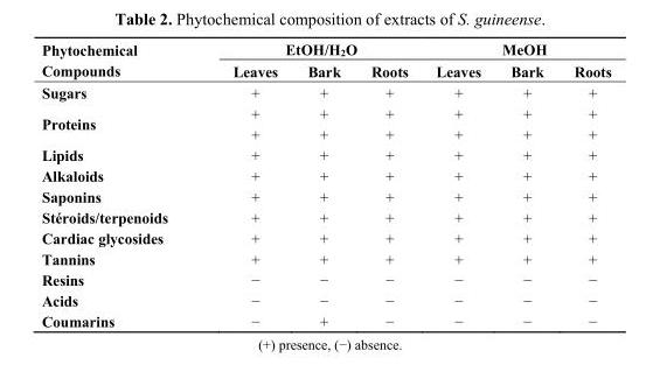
<table><thead><tr><td rowspan="2">Phytochemical Compounds</td><td colspan="3">EtOH/H<sub>2</sub>O</td><td colspan="3">MeOH</td></tr><tr><td>Leaves</td><td>Bark</td><td>Roots</td><td>Leaves</td><td>Bark</td><td>Roots</td></tr></thead><tbody><tr><td>Sugars</td><td>+</td><td>+</td><td>+</td><td>+</td><td>+</td><td>+</td></tr><tr><td rowspan="2">Proteins</td><td>+</td><td>+</td><td>+</td><td>+</td><td>+</td><td>+</td></tr><tr><td>+</td><td>+</td><td>+</td><td>+</td><td>+</td><td>+</td></tr><tr><td>Lipids</td><td>+</td><td>+</td><td>+</td><td>+</td><td>+</td><td>+</td></tr><tr><td>Alkaloids</td><td>+</td><td>+</td><td>+</td><td>+</td><td>+</td><td>+</td></tr><tr><td>Saponins</td><td>+</td><td>+</td><td>+</td><td>+</td><td>+</td><td>+</td></tr><tr><td>Stéroids/terpenoids</td><td>+</td><td>+</td><td>+</td><td>+</td><td>+</td><td>+</td></tr><tr><td>Cardiac glycosides</td><td>+</td><td>+</td><td>+</td><td>+</td><td>+</td><td>+</td></tr><tr><td>Tannins</td><td>+</td><td>+</td><td>+</td><td>+</td><td>+</td><td>+</td></tr><tr><td>Resins</td><td>−</td><td>−</td><td>−</td><td>−</td><td>−</td><td>−</td></tr><tr><td>Acids</td><td>−</td><td>−</td><td>−</td><td>−</td><td>−</td><td>−</td></tr><tr><td>Coumarins</td><td>−</td><td>+</td><td>−</td><td>−</td><td>−</td><td>−</td></tr></tbody></table>